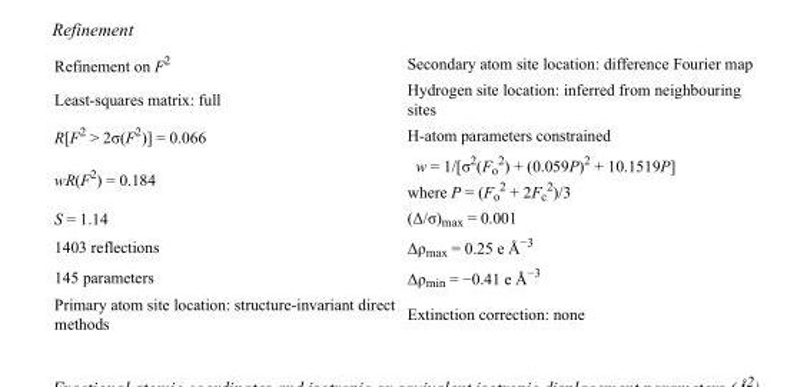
<table><tbody><tr><td>Refinement on F<sup>2</sup></td><td>Secondary atom site location: difference Fourier map</td></tr><tr><td>Least-squares matrix: full</td><td>Hydrogen site location: inferred from neighbouring sites</td></tr><tr><td>R[F<sup>2</sup> &gt; 2σ(F<sup>2</sup>)] = 0.066</td><td>H-atom parameters constrained</td></tr><tr><td>wR(F<sup>2</sup>) = 0.184</td><td>w = 1/[σ<sup>2</sup>(F<sub>o</sub> <sup>2</sup>) + (0.059P)<sup>2</sup> + 10.1519P] where P = (F<sub>o</sub> <sup>2</sup> + 2F<sub>c</sub> <sup>2</sup>)/3</td></tr><tr><td>S = 1.14</td><td>(Δ/σ)<sub>max</sub> = 0.001</td></tr><tr><td>1403 reflections</td><td>Δρ<sub>max</sub> = 0.25 e Å<sup>−3</sup></td></tr><tr><td>145 parameters</td><td>Δρ<sub>min</sub> = −0.41 e Å<sup>−3</sup></td></tr><tr><td>Primary atom site location: structure-invariant direct methods</td><td>Extinction correction: none</td></tr></tbody></table>